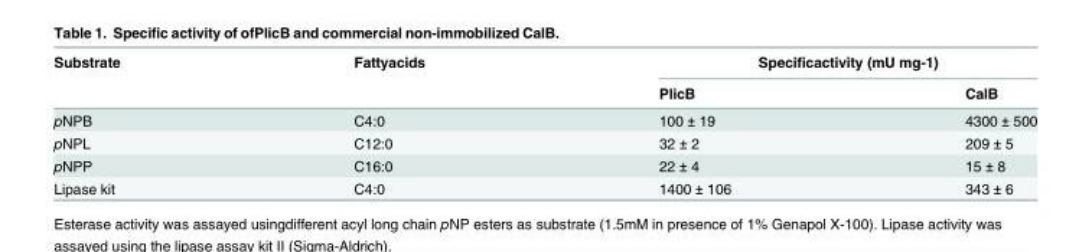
<table><thead><tr><td rowspan="2">Substrate</td><td rowspan="2">Fattyacids</td><td colspan="2">Specificactivity (mU mg-1)</td></tr><tr><td>PlicB</td><td>CalB</td></tr></thead><tbody><tr><td>pNPB</td><td>C4:0</td><td>100 ± 19</td><td>4300 ± 500</td></tr><tr><td>pNPL</td><td>C12:0</td><td>32 ± 2</td><td>209 ± 5</td></tr><tr><td>pNPP</td><td>C16:0</td><td>22 ± 4</td><td>15 ± 8</td></tr><tr><td>Lipase kit</td><td>C4:0</td><td>1400 ± 106</td><td>343 ± 6</td></tr></tbody></table>